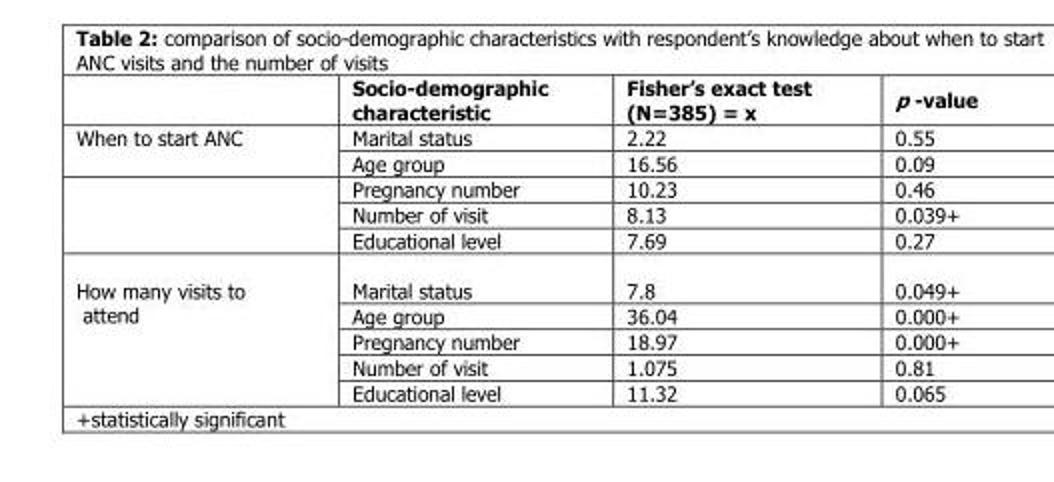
<table><thead><tr><td></td><td>Socio-demographic characteristic</td><td>Fisher’s exact test (N=385) = x</td><td>p -value</td></tr></thead><tbody><tr><td rowspan="5">When to start ANC</td><td>Marital status</td><td>2.22</td><td>0.55</td></tr><tr><td>Age group</td><td>16.56</td><td>0.09</td></tr><tr><td>Pregnancy number</td><td>10.23</td><td>0.46</td></tr><tr><td>Number of visit</td><td>8.13</td><td>0.039+</td></tr><tr><td>Educational level</td><td>7.69</td><td>0.27</td></tr><tr><td rowspan="5">How many visits to attend</td><td>Marital status</td><td>7.8</td><td>0.049+</td></tr><tr><td>Age group</td><td>36.04</td><td>0.000+</td></tr><tr><td>Pregnancy number</td><td>18.97</td><td>0.000+</td></tr><tr><td>Number of visit</td><td>1.075</td><td>0.81</td></tr><tr><td>Educational level</td><td>11.32</td><td>0.065</td></tr></tbody></table>